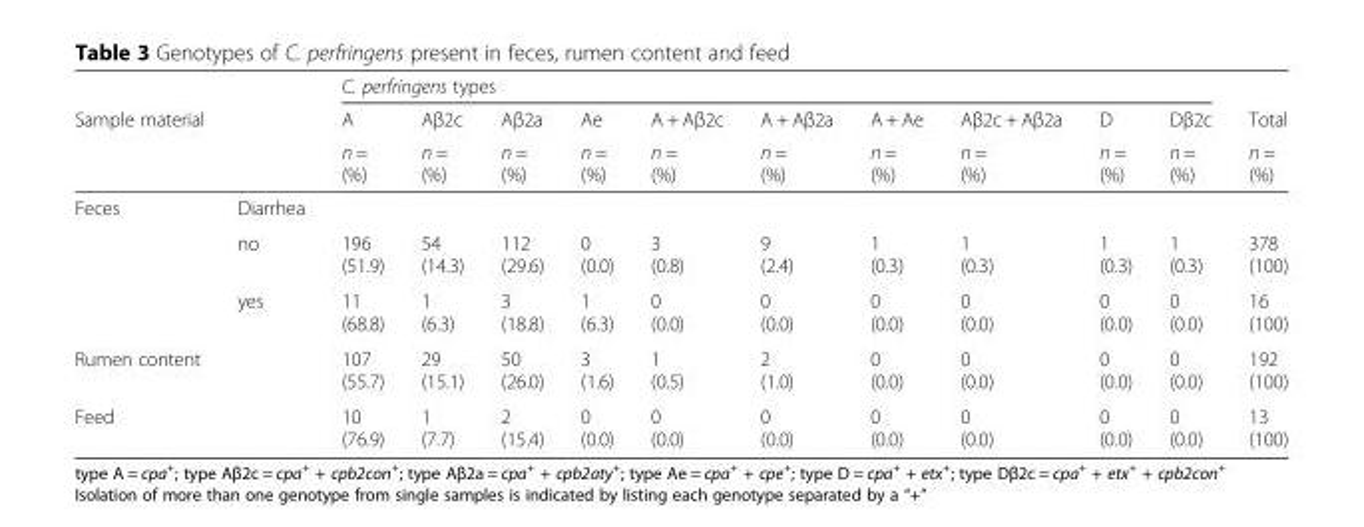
<table><thead><tr><td></td><td></td><td colspan="10">C. perfringens types</td><td rowspan="3">Total n = (%)</td></tr><tr><td colspan="2">Sample material</td><td rowspan="2">A n = (%)</td><td rowspan="2">Aβ2c n = (%)</td><td rowspan="2">Aβ2a n = (%)</td><td rowspan="2">Ae n = (%)</td><td rowspan="2">A + Aβ2c n = (%)</td><td rowspan="2">A + Aβ2a n = (%)</td><td rowspan="2">A + Ae n = (%)</td><td rowspan="2">Aβ2c + Aβ2a n = (%)</td><td rowspan="2">D n = (%)</td><td rowspan="2">Dβ2c n = (%)</td></tr><tr><td></td><td></td></tr></thead><tbody><tr><td rowspan="3">Feces</td><td>Diarrhea</td><td></td><td></td><td></td><td></td><td></td><td></td><td></td><td></td><td></td><td></td><td></td></tr><tr><td>no</td><td>196 (51.9)</td><td>54 (14.3)</td><td>112 (29.6)</td><td>0 (0.0)</td><td>3 (0.8)</td><td>9 (2.4)</td><td>1 (0.3)</td><td>1 (0.3)</td><td>1 (0.3)</td><td>1 (0.3)</td><td>378 (100)</td></tr><tr><td>yes</td><td>11 (68.8)</td><td>1 (6.3)</td><td>3 (18.8)</td><td>1 (6.3)</td><td>0 (0.0)</td><td>0 (0.0)</td><td>0 (0.0)</td><td>0 (0.0)</td><td>0 (0.0)</td><td>0 (0.0)</td><td>16 (100)</td></tr><tr><td>Rumen content</td><td></td><td>107 (55.7)</td><td>29 (15.1)</td><td>50 (26.0)</td><td>3 (1.6)</td><td>1 (0.5)</td><td>2 (1.0)</td><td>0 (0.0)</td><td>0 (0.0)</td><td>0 (0.0)</td><td>0 (0.0)</td><td>192 (100)</td></tr><tr><td>Feed</td><td></td><td>10 (76.9)</td><td>1 (7.7)</td><td>2 (15.4)</td><td>0 (0.0)</td><td>0 (0.0)</td><td>0 (0.0)</td><td>0 (0.0)</td><td>0 (0.0)</td><td>0 (0.0)</td><td>0 (0.0)</td><td>13 (100)</td></tr></tbody></table>